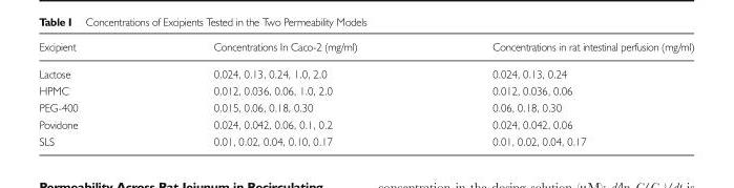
<table><thead><tr><td>Excipient</td><td>Concentrations In Caco-2 (mg/ml)</td><td>Concentrations in rat intestinal perfusion (mg/ml)</td></tr></thead><tbody><tr><td>Lactose</td><td>0.024, 0.13, 0.24, 1.0, 2.0</td><td>0.024, 0.13, 0.24</td></tr><tr><td>HPMC</td><td>0.012, 0.036, 0.06, 1.0, 2.0</td><td>0.012, 0.036, 0.06</td></tr><tr><td>PEG-400</td><td>0.015, 0.06, 0.18, 0.30</td><td>0.06, 0.18, 0.30</td></tr><tr><td>Povidone</td><td>0.024, 0.042, 0.06, 0.1, 0.2</td><td>0.024, 0.042, 0.06</td></tr><tr><td>SLS</td><td>0.01, 0.02, 0.04, 0.10, 0.17</td><td>0.01, 0.02, 0.04, 0.17</td></tr></tbody></table>